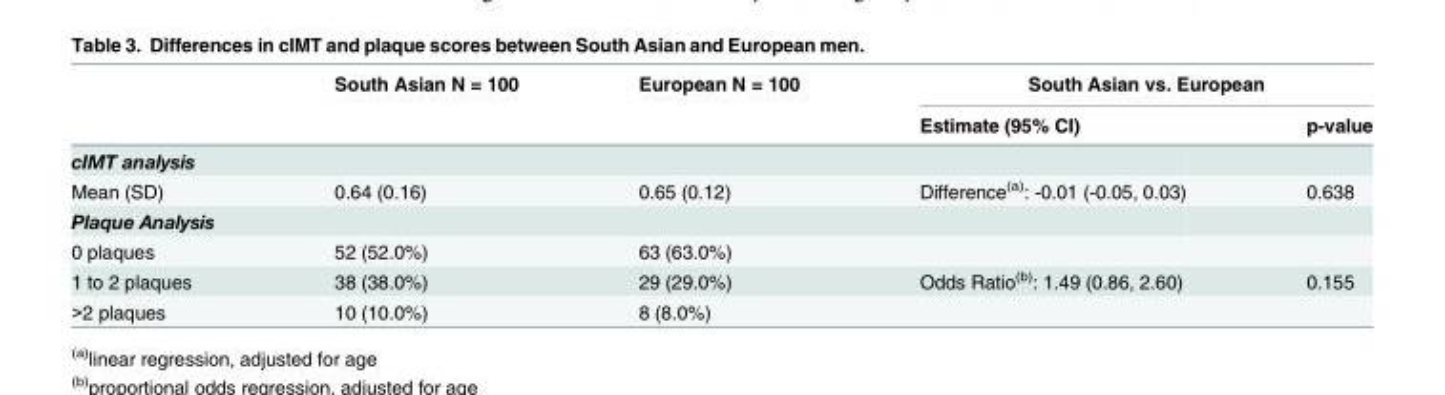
<table><thead><tr><td rowspan="2"></td><td rowspan="2">South Asian N = 100</td><td rowspan="2">European N = 100</td><td colspan="2">South Asian vs. European</td></tr><tr><td>Estimate (95% CI)</td><td>p-value</td></tr></thead><tbody><tr><td colspan="5">cIMT analysis</td></tr><tr><td>Mean (SD)</td><td>0.64 (0.16)</td><td>0.65 (0.12)</td><td>Difference<sup>(a)</sup>: -0.01 (-0.05, 0.03)</td><td>0.638</td></tr><tr><td colspan="5">Plaque Analysis</td></tr><tr><td>0 plaques</td><td>52 (52.0%)</td><td>63 (63.0%)</td><td></td><td></td></tr><tr><td>1 to 2 plaques</td><td>38 (38.0%)</td><td>29 (29.0%)</td><td>Odds Ratio<sup>(b)</sup>: 1.49 (0.86, 2.60)</td><td>0.155</td></tr><tr><td>&gt;2 plaques</td><td>10 (10.0%)</td><td>8 (8.0%)</td><td></td><td></td></tr></tbody></table>